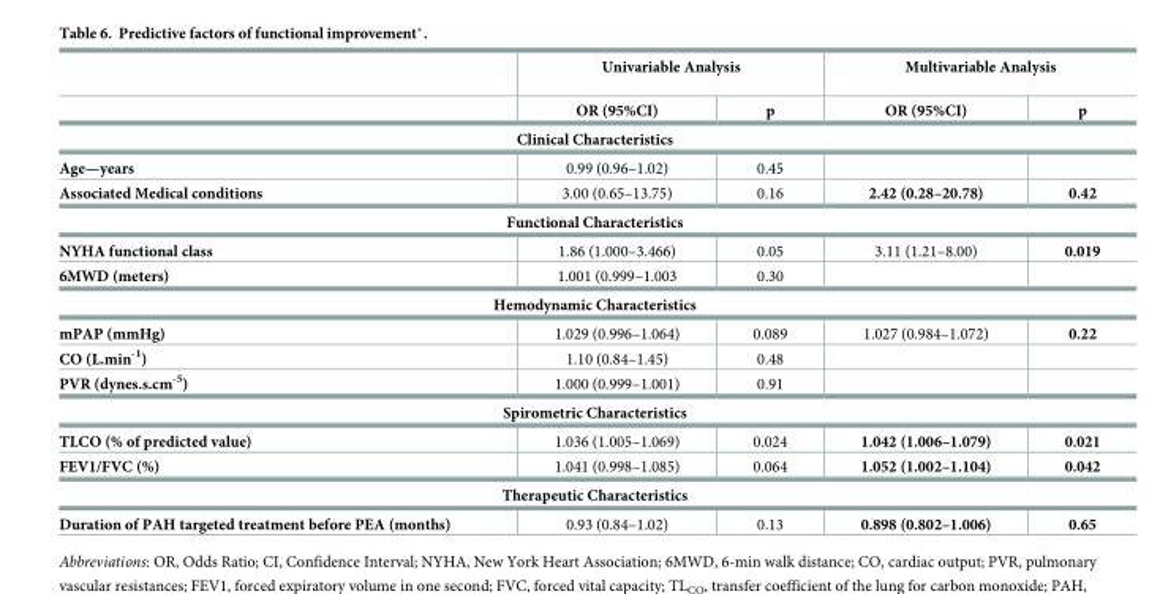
<table><thead><tr><td rowspan="2"></td><td colspan="2">Univariable Analysis</td><td colspan="2">Multivariable Analysis</td></tr><tr><td>OR (95%CI)</td><td>p</td><td>OR (95%CI)</td><td>p</td></tr></thead><tbody><tr><td colspan="5">Clinical Characteristics</td></tr><tr><td>Age—years</td><td>0.99 (0.96–1.02)</td><td>0.45</td><td></td><td></td></tr><tr><td>Associated Medical conditions</td><td>3.00 (0.65–13.75)</td><td>0.16</td><td>2.42 (0.28–20.78)</td><td>0.42</td></tr><tr><td colspan="5">Functional Characteristics</td></tr><tr><td>NYHA functional class</td><td>1.86 (1.000–3.466)</td><td>0.05</td><td>3.11 (1.21–8.00)</td><td>0.019</td></tr><tr><td>6MWD (meters)</td><td>1.001 (0.999–1.003</td><td>0.30</td><td></td><td></td></tr><tr><td colspan="5">Hemodynamic Characteristics</td></tr><tr><td>mPAP (mmHg)</td><td>1.029 (0.996–1.064)</td><td>0.089</td><td>1.027 (0.984–1.072)</td><td>0.22</td></tr><tr><td>CO (L.min<sup>-1</sup>)</td><td>1.10 (0.84–1.45)</td><td>0.48</td><td></td><td></td></tr><tr><td>PVR (dynes.s.cm<sup>-5</sup>)</td><td>1.000 (0.999–1.001)</td><td>0.91</td><td></td><td></td></tr><tr><td colspan="5">Spirometric Characteristics</td></tr><tr><td>TLCO (% of predicted value)</td><td>1.036 (1.005–1.069)</td><td>0.024</td><td>1.042 (1.006–1.079)</td><td>0.021</td></tr><tr><td>FEV1/FVC (%)</td><td>1.041 (0.998–1.085)</td><td>0.064</td><td>1.052 (1.002–1.104)</td><td>0.042</td></tr><tr><td colspan="5">Therapeutic Characteristics</td></tr><tr><td>Duration of PAH targeted treatment before PEA (months)</td><td>0.93 (0.84–1.02)</td><td>0.13</td><td>0.898 (0.802–1.006)</td><td>0.65</td></tr></tbody></table>